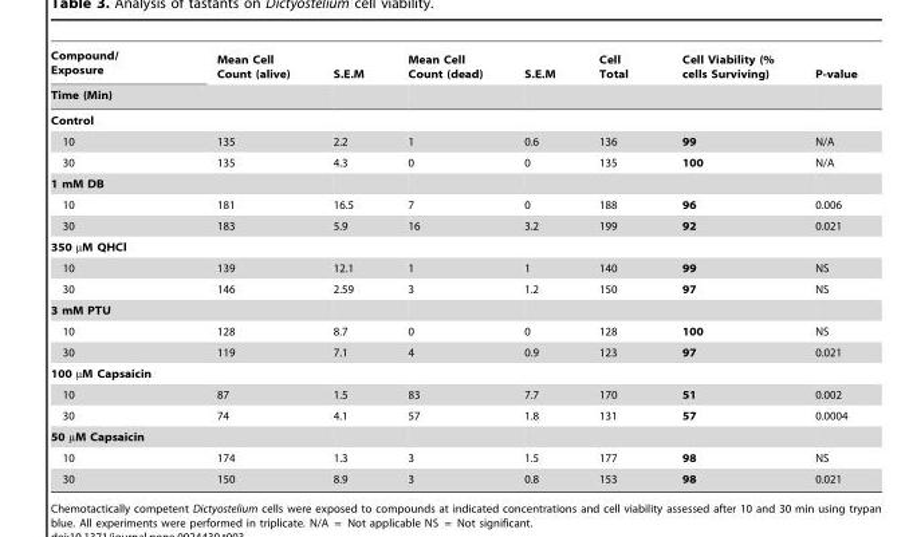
<table><thead><tr><td rowspan="2">Compound/ Exposure Time (Min)</td><td rowspan="2">Mean Cell Count (alive)</td><td rowspan="2">S.E.M</td><td rowspan="2">Mean Cell Count (dead)</td><td rowspan="2">S.E.M</td><td rowspan="2">Cell Total</td><td rowspan="2">Cell Viability (% cells Surviving)</td><td rowspan="2">P-value</td></tr><tr></tr></thead><tbody><tr><td colspan="8">Control</td></tr><tr><td>10</td><td>135</td><td>2.2</td><td>1</td><td>0.6</td><td>136</td><td>99</td><td>N/A</td></tr><tr><td>30</td><td>135</td><td>4.3</td><td>0</td><td>0</td><td>135</td><td>100</td><td>N/A</td></tr><tr><td colspan="8">1 mM DB</td></tr><tr><td>10</td><td>181</td><td>16.5</td><td>7</td><td>0</td><td>188</td><td>96</td><td>0.006</td></tr><tr><td>30</td><td>183</td><td>5.9</td><td>16</td><td>3.2</td><td>199</td><td>92</td><td>0.021</td></tr><tr><td colspan="8">350 µM QHCl</td></tr><tr><td>10</td><td>139</td><td>12.1</td><td>1</td><td>1</td><td>140</td><td>99</td><td>NS</td></tr><tr><td>30</td><td>146</td><td>2.59</td><td>3</td><td>1.2</td><td>150</td><td>97</td><td>NS</td></tr><tr><td colspan="8">3 mM PTU</td></tr><tr><td>10</td><td>128</td><td>8.7</td><td>0</td><td>0</td><td>128</td><td>100</td><td>NS</td></tr><tr><td>30</td><td>119</td><td>7.1</td><td>4</td><td>0.9</td><td>123</td><td>97</td><td>0.021</td></tr><tr><td colspan="8">100 µM Capsaicin</td></tr><tr><td>10</td><td>87</td><td>1.5</td><td>83</td><td>7.7</td><td>170</td><td>51</td><td>0.002</td></tr><tr><td>30</td><td>74</td><td>4.1</td><td>57</td><td>1.8</td><td>131</td><td>57</td><td>0.0004</td></tr><tr><td colspan="8">50 µM Capsaicin</td></tr><tr><td>10</td><td>174</td><td>1.3</td><td>3</td><td>1.5</td><td>177</td><td>98</td><td>NS</td></tr><tr><td>30</td><td>150</td><td>8.9</td><td>3</td><td>0.8</td><td>153</td><td>98</td><td>0.021</td></tr></tbody></table>